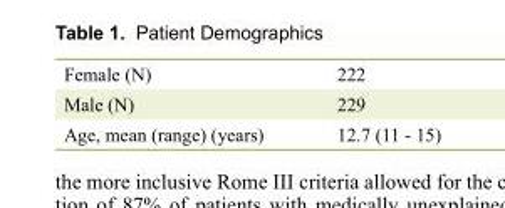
<table><tbody><tr><td>Female (N)</td><td>222</td></tr><tr><td>Male (N)</td><td>229</td></tr><tr><td>Age, mean (range) (years)</td><td>12.7 (11 - 15)</td></tr></tbody></table>